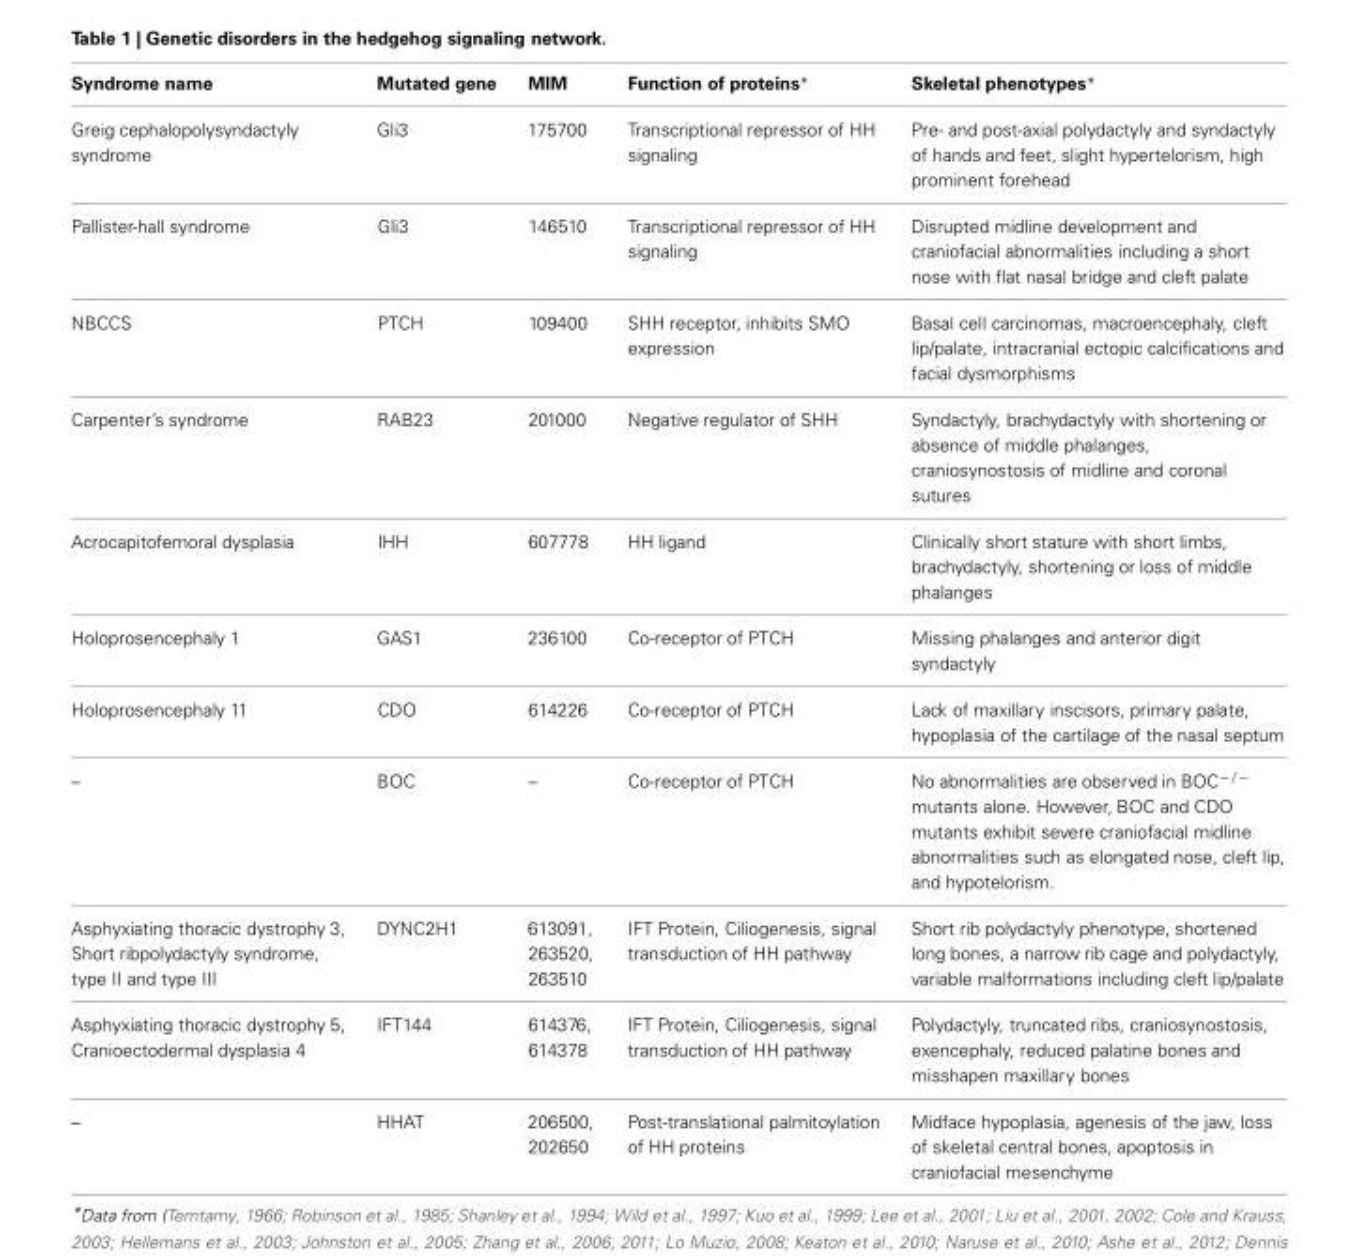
<table><thead><tr><td>Syndrome name</td><td>Mutated gene</td><td>MIM</td><td>Function of proteins*</td><td>Skeletal phenotypes*</td></tr></thead><tbody><tr><td>Greig cephalopolysyndactyly syndrome</td><td>Gli3</td><td>175700</td><td>Transcriptional repressor of HH signaling</td><td>Pre- and post-axial polydactyly and syndactyly of hands and feet, slight hypertelorism, high prominent forehead</td></tr><tr><td>Pallister-hall syndrome</td><td>Gli3</td><td>146510</td><td>Transcriptional repressor of HH signaling</td><td>Disrupted midline development and craniofacial abnormalities including a short nose with flat nasal bridge and cleft palate</td></tr><tr><td>NBCCS</td><td>PTCH</td><td>109400</td><td>SHH receptor, inhibits SMO expression</td><td>Basal cell carcinomas, macroencephaly, cleft lip/palate, intracranial ectopic calcifications and facial dysmorphisms</td></tr><tr><td>Carpenter’s syndrome</td><td>RAB23</td><td>201000</td><td>Negative regulator of SHH</td><td>Syndactyly, brachydactyly with shortening or absence of middle phalanges, craniosynostosis of midline and coronal sutures</td></tr><tr><td>Acrocapitofemoral dysplasia</td><td>IHH</td><td>607778</td><td>HH ligand</td><td>Clinically short stature with short limbs, brachydactyly, shortening or loss of middle phalanges</td></tr><tr><td>Holoprosencephaly 1</td><td>GAS1</td><td>236100</td><td>Co-receptor of PTCH</td><td>Missing phalanges and anterior digit syndactyly</td></tr><tr><td>Holoprosencephaly 11</td><td>CDO</td><td>614226</td><td>Co-receptor of PTCH</td><td>Lack of maxillary inscisors, primary palate, hypoplasia of the cartilage of the nasal septum</td></tr><tr><td>–</td><td>BOC</td><td>–</td><td>Co-receptor of PTCH</td><td>No abnormalities are observed in BOC<sup>−/−</sup> mutants alone. However, BOC and CDO mutants exhibit severe craniofacial midline abnormalities such as elongated nose, cleft lip, and hypotelorism.</td></tr><tr><td>Asphyxiating thoracic dystrophy 3, Short ribpolydactyly syndrome, type II and type III</td><td>DYNC2H1</td><td>613091, 263520, 263510</td><td>IFT Protein, Ciliogenesis, signal transduction of HH pathway</td><td>Short rib polydactyly phenotype, shortened long bones, a narrow rib cage and polydactyly, variable malformations including cleft lip/palate</td></tr><tr><td>Asphyxiating thoracic dystrophy 5, Cranioectodermal dysplasia 4</td><td>IFT144</td><td>614376, 614378</td><td>IFT Protein, Ciliogenesis, signal transduction of HH pathway</td><td>Polydactyly, truncated ribs, craniosynostosis, exencephaly, reduced palatine bones and misshapen maxillary bones</td></tr><tr><td>–</td><td>HHAT</td><td>206500, 202650</td><td>Post-translational palmitoylation of HH proteins</td><td>Midface hypoplasia, agenesis of the jaw, loss of skeletal central bones, apoptosis in craniofacial mesenchyme</td></tr></tbody></table>